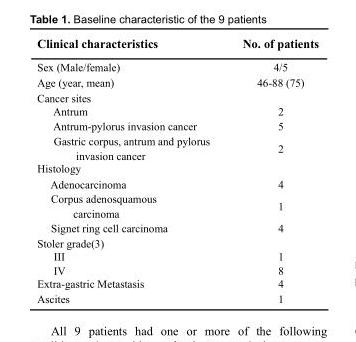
<table><thead><tr><td>Clinical characteristics</td><td>No. of patients</td></tr></thead><tbody><tr><td>Sex (Male/female)</td><td>4/5</td></tr><tr><td>Age (year, mean)</td><td>46-88 (75)</td></tr><tr><td colspan="2">Cancer sites</td></tr><tr><td>Antrum</td><td>2</td></tr><tr><td>Antrum-pylorus invasion cancer</td><td>5</td></tr><tr><td>Gastric corpus, antrum and pylorus invasion cancer</td><td>2</td></tr><tr><td colspan="2">Histology</td></tr><tr><td>Adenocarcinoma</td><td>4</td></tr><tr><td>Corpus adenosquamous carcinoma</td><td>1</td></tr><tr><td>Signet ring cell carcinoma</td><td>4</td></tr><tr><td colspan="2">Stoler grade(3)</td></tr><tr><td>III</td><td>1</td></tr><tr><td>IV</td><td>8</td></tr><tr><td>Extra-gastric Metastasis</td><td>4</td></tr><tr><td>Ascites</td><td>1</td></tr></tbody></table>